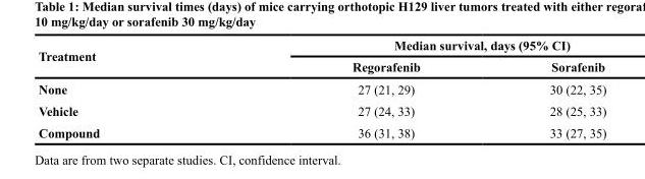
<table><thead><tr><td rowspan="2">Treatment</td><td colspan="2">Median survival, days (95% CI)</td></tr><tr><td>Regorafenib</td><td>Sorafenib</td></tr></thead><tbody><tr><td>None</td><td>27 (21, 29)</td><td>30 (22, 35)</td></tr><tr><td>Vehicle</td><td>27 (24, 33)</td><td>28 (25, 33)</td></tr><tr><td>Compound</td><td>36 (31, 38)</td><td>33 (27, 35)</td></tr></tbody></table>